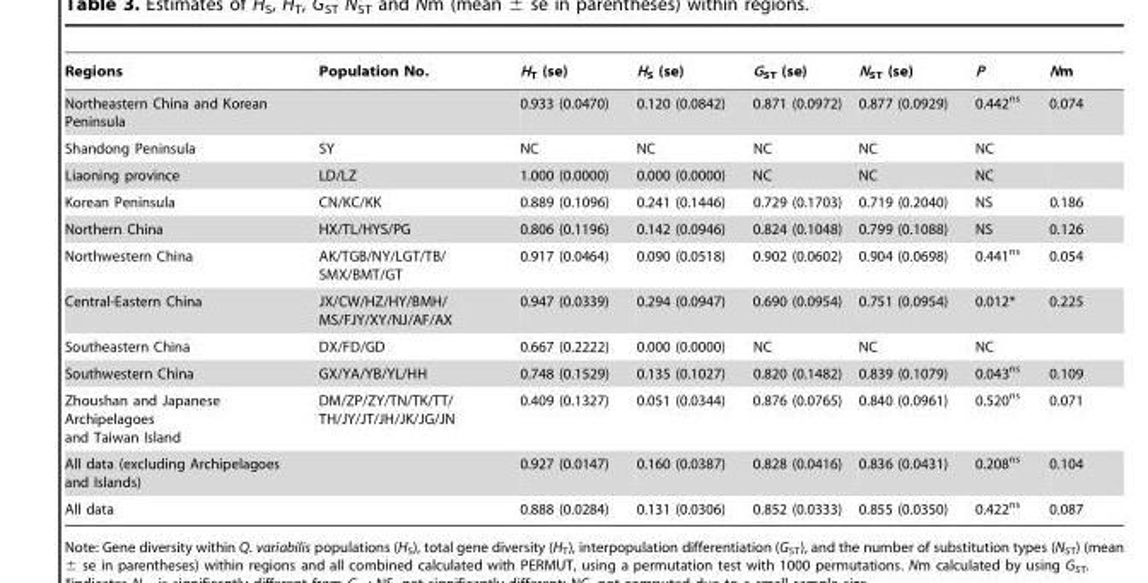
<table><thead><tr><td>Regions</td><td>Population No.</td><td>H<sub>T</sub> (se)</td><td>H<sub>S</sub> (se)</td><td>G<sub>ST</sub> (se)</td><td>N<sub>ST</sub> (se)</td><td>P</td><td>Nm</td></tr></thead><tbody><tr><td colspan="2">Northeastern China and Korean Peninsula</td><td>0.933 (0.0470)</td><td>0.120 (0.0842)</td><td>0.871 (0.0972)</td><td>0.877 (0.0929)</td><td>0.442<sup>ns</sup></td><td>0.074</td></tr><tr><td>Shandong Peninsula</td><td>SY</td><td>NC</td><td>NC</td><td>NC</td><td>NC</td><td>NC</td><td></td></tr><tr><td>Liaoning province</td><td>LD/LZ</td><td>1.000 (0.0000)</td><td>0.000 (0.0000)</td><td>NC</td><td>NC</td><td>NC</td><td></td></tr><tr><td>Korean Peninsula</td><td>CN/KC/KK</td><td>0.889 (0.1096)</td><td>0.241 (0.1446)</td><td>0.729 (0.1703)</td><td>0.719 (0.2040)</td><td>NS</td><td>0.186</td></tr><tr><td>Northern China</td><td>HX/TL/HYS/PG</td><td>0.806 (0.1196)</td><td>0.142 (0.0946)</td><td>0.824 (0.1048)</td><td>0.799 (0.1088)</td><td>NS</td><td>0.126</td></tr><tr><td>Northwestern China</td><td>AK/TGB/NY/LGT/TB/ SMX/BMT/GT</td><td>0.917 (0.0464)</td><td>0.090 (0.0518)</td><td>0.902 (0.0602)</td><td>0.904 (0.0698)</td><td>0.441<sup>ns</sup></td><td>0.054</td></tr><tr><td>Central-Eastern China</td><td>JX/CW/HZ/HY/BMH/ MS/FJY/XY/NJ/AF/AX</td><td>0.947 (0.0339)</td><td>0.294 (0.0947)</td><td>0.690 (0.0954)</td><td>0.751 (0.0954)</td><td>0.012*</td><td>0.225</td></tr><tr><td>Southeastern China</td><td>DX/FD/GD</td><td>0.667 (0.2222)</td><td>0.000 (0.0000)</td><td>NC</td><td>NC</td><td>NC</td><td></td></tr><tr><td>Southwestern China</td><td>GX/YA/YB/YL/HH</td><td>0.748 (0.1529)</td><td>0.135 (0.1027)</td><td>0.820 (0.1482)</td><td>0.839 (0.1079)</td><td>0.043<sup>ns</sup></td><td>0.109</td></tr><tr><td>Zhoushan and Japanese Archipelagoes and Taiwan Island</td><td>DM/ZP/ZY/TN/TK/TT/ TH/JY/JT/JH/JK/JG/JN</td><td>0.409 (0.1327)</td><td>0.051 (0.0344)</td><td>0.876 (0.0765)</td><td>0.840 (0.0961)</td><td>0.520<sup>ns</sup></td><td>0.071</td></tr><tr><td colspan="2">All data (excluding Archipelagoes and Islands)</td><td>0.927 (0.0147)</td><td>0.160 (0.0387)</td><td>0.828 (0.0416)</td><td>0.836 (0.0431)</td><td>0.208<sup>ns</sup></td><td>0.104</td></tr><tr><td colspan="2">All data</td><td>0.888 (0.0284)</td><td>0.131 (0.0306)</td><td>0.852 (0.0333)</td><td>0.855 (0.0350)</td><td>0.422<sup>ns</sup></td><td>0.087</td></tr></tbody></table>